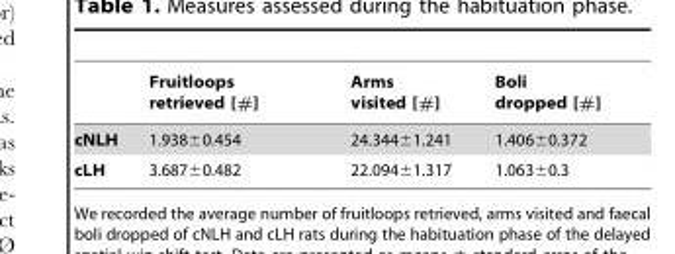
<table><thead><tr><td></td><td>Fruitloops retrieved [#]</td><td>Arms visited [#]</td><td>Boli dropped [#]</td></tr></thead><tbody><tr><td>cNLH</td><td>1.938±0.454</td><td>24.344±1.241</td><td>1.406±0.372</td></tr><tr><td>cLH</td><td>3.687±0.482</td><td>22.094±1.317</td><td>1.063±0.3</td></tr></tbody></table>